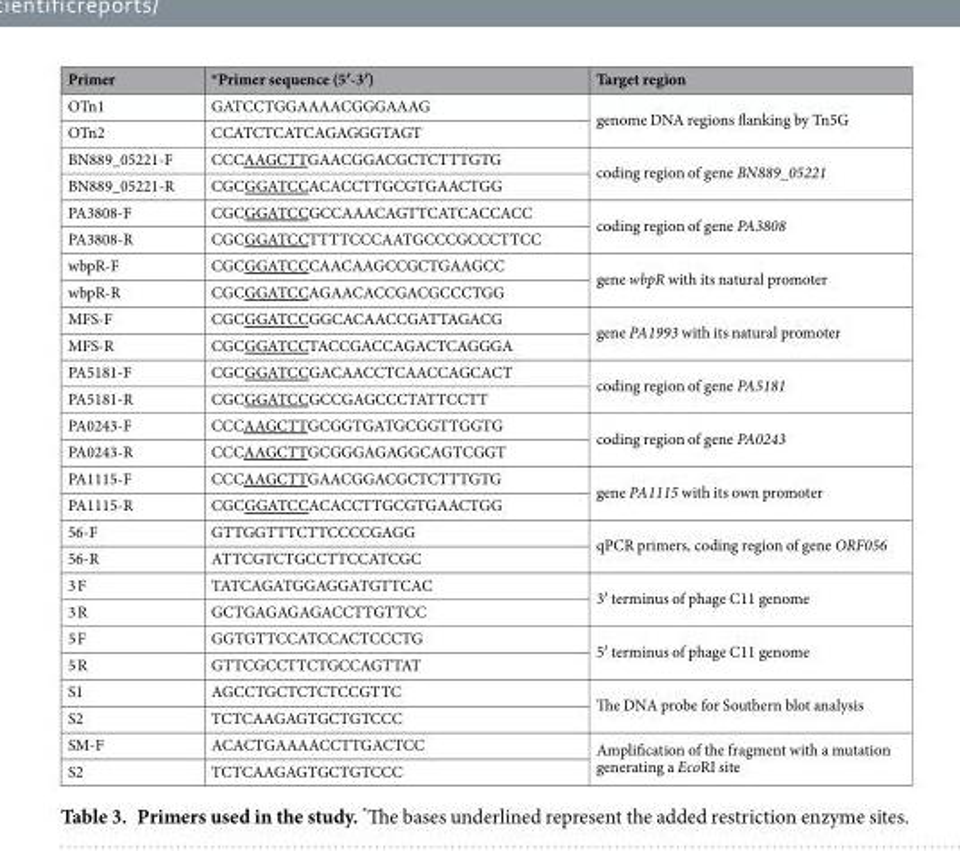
<table><thead><tr><td>Primer</td><td>*Primer sequence (5′-3′)</td><td>Target region</td></tr></thead><tbody><tr><td>OTn1</td><td>GATCCTGGAAAACGGGAAAG</td><td rowspan="2">genome DNA regions flanking by Tn5G</td></tr><tr><td>OTn2</td><td>CCATCTCATCAGAGGGTAGT</td></tr><tr><td>BN889_05221-F</td><td>CCCAAGCTTGAACGGACGCTCTTTGTG</td><td rowspan="2">coding region of gene BN889_05221</td></tr><tr><td>BN889_05221-R</td><td>CGCGGATCCACACCTTGCGTGAACTGG</td></tr><tr><td>PA3808-F</td><td>CGCGGATCCGCCAAACAGTTCATCACCACC</td><td rowspan="2">coding region of gene PA3808</td></tr><tr><td>PA3808-R</td><td>CGCGGATCCTTTTCCCAATGCCCGCCCTTCC</td></tr><tr><td>wbpR-F</td><td>CGCGGATCCCAACAAGCCGCTGAAGCC</td><td rowspan="2">gene wbpR with its natural promoter</td></tr><tr><td>wbpR-R</td><td>CGCGGATCCAGAACACCGACGCCCTGG</td></tr><tr><td>MFS-F</td><td>CGCGGATCCGGCACAACCGATTAGACG</td><td rowspan="2">gene PA1993 with its natural promoter</td></tr><tr><td>MFS-R</td><td>CGCGGATCCTACCGACCAGACTCAGGGA</td></tr><tr><td>PA5181-F</td><td>CGCGGATCCGACAACCTCAACCAGCACT</td><td rowspan="2">coding region of gene PA5181</td></tr><tr><td>PA5181-R</td><td>CGCGGATCCGCCGAGCCCTATTCCTT</td></tr><tr><td>PA0243-F</td><td>CCCAAGCTTGCGGTGATGCGGTTGGTG</td><td rowspan="2">coding region of gene PA0243</td></tr><tr><td>PA0243-R</td><td>CCCAAGCTTGCGGGAGAGGCAGTCGGT</td></tr><tr><td>PA1115-F</td><td>CCCAAGCTTGAACGGACGCTCTTTGTG</td><td rowspan="2">gene PA1115 with its own promoter</td></tr><tr><td>PA1115-R</td><td>CGCGGATCCACACCTTGCGTGAACTGG</td></tr><tr><td>56-F</td><td>GTTGGTTTCTTCCCCGAGG</td><td rowspan="2">qPCR primers, coding region of gene ORF056</td></tr><tr><td>56-R</td><td>ATTCGTCTGCCTTCCATCGC</td></tr><tr><td>3 F</td><td>TATCAGATGGAGGATGTTCAC</td><td rowspan="2">3′ terminus of phage C11 genome</td></tr><tr><td>3 R</td><td>GCTGAGAGAGACCTTGTTCC</td></tr><tr><td>5 F</td><td>GGTGTTCCATCCACTCCCTG</td><td rowspan="2">5′ terminus of phage C11 genome</td></tr><tr><td>5 R</td><td>GTTCGCCTTCTGCCAGTTAT</td></tr><tr><td>S1</td><td>AGCCTGCTCTCTCCGTTC</td><td rowspan="2">The DNA probe for Southern blot analysis</td></tr><tr><td>S2</td><td>TCTCAAGAGTGCTGTCCC</td></tr><tr><td>SM-F</td><td>ACACTGAAAACCTTGACTCC</td><td rowspan="2">Amplification of the fragment with a mutation generating a EcoRI site</td></tr><tr><td>S2</td><td>TCTCAAGAGTGCTGTCCC</td></tr></tbody></table>